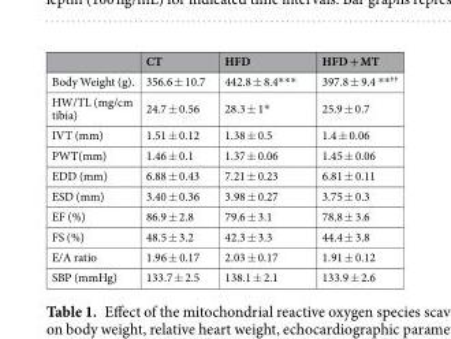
<table><thead><tr><td></td><td>CT</td><td>HFD</td><td>HFD + MT</td></tr></thead><tbody><tr><td>Body Weight (g).</td><td>356.6 ± 10.7</td><td>442.8 ± 8.4***</td><td>397.8 ± 9.4 **<sup>††</sup></td></tr><tr><td>HW/TL (mg/cm tibia)</td><td>24.7 ± 0.56</td><td>28.3 ± 1*</td><td>25.9 ± 0.7</td></tr><tr><td>IVT (mm)</td><td>1.51 ± 0.12</td><td>1.38 ± 0.5</td><td>1.4 ± 0.06</td></tr><tr><td>PWT(mm)</td><td>1.46 ± 0.1</td><td>1.37 ± 0.06</td><td>1.45 ± 0.06</td></tr><tr><td>EDD (mm)</td><td>6.88 ± 0.43</td><td>7.21 ± 0.23</td><td>6.81 ± 0.11</td></tr><tr><td>ESD (mm)</td><td>3.40 ± 0.36</td><td>3.98 ± 0.27</td><td>3.75 ± 0.3</td></tr><tr><td>EF (%)</td><td>86.9 ± 2.8</td><td>79.6 ± 3.1</td><td>78.8 ± 3.6</td></tr><tr><td>FS (%)</td><td>48.5 ± 3.2</td><td>42.3 ± 3.3</td><td>44.4 ± 3.8</td></tr><tr><td>E/A ratio</td><td>1.96 ± 0.17</td><td>2.03 ± 0.17</td><td>1.91 ± 0.12</td></tr><tr><td>SBP (mmHg)</td><td>133.7 ± 2.5</td><td>138.1 ± 2.1</td><td>133.9 ± 2.6</td></tr></tbody></table>